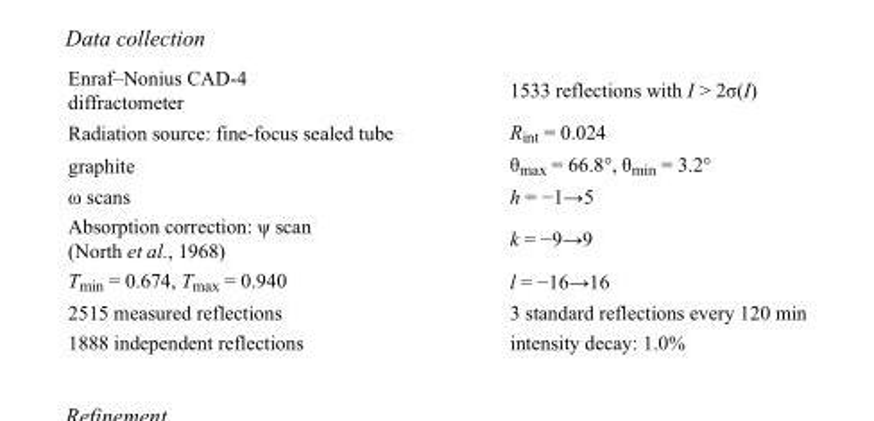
<table><tbody><tr><td>Enraf–Nonius CAD-4 diffractometer</td><td>1533 reflections with I &gt; 2σ(I)</td></tr><tr><td>Radiation source: fine-focus sealed tube</td><td>R<sub>int</sub> = 0.024</td></tr><tr><td>graphite</td><td>θ<sub>max</sub> = 66.8°, θ<sub>min</sub> = 3.2°</td></tr><tr><td>ω scans</td><td>h = −1→5</td></tr><tr><td>Absorption correction: ψ scan (North et al., 1968)</td><td>k = −9→9</td></tr><tr><td>T<sub>min</sub> = 0.674, T<sub>max</sub> = 0.940</td><td>l = −16→16</td></tr><tr><td>2515 measured reflections</td><td>3 standard reflections every 120 min</td></tr><tr><td>1888 independent reflections</td><td>intensity decay: 1.0%</td></tr></tbody></table>